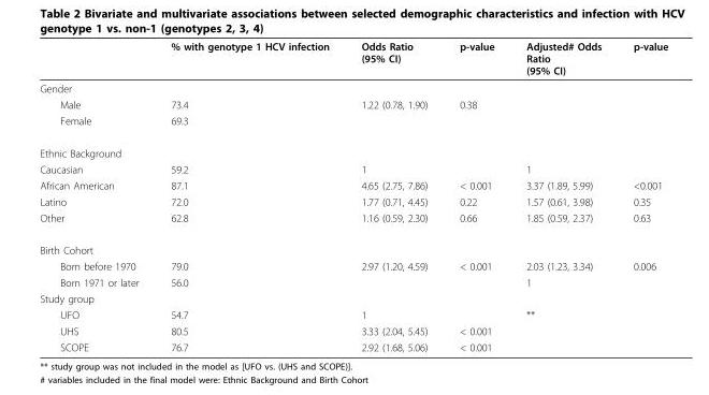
<table><thead><tr><td></td><td>% with genotype 1 HCV infection</td><td>Odds Ratio (95% CI)</td><td>p-value</td><td>Adjusted# Odds Ratio (95% CI)</td><td>p-value</td></tr></thead><tbody><tr><td colspan="6">Gender</td></tr><tr><td>Male</td><td>73.4</td><td>1.22 (0.78, 1.90)</td><td>0.38</td><td></td><td></td></tr><tr><td>Female</td><td>69.3</td><td></td><td></td><td></td><td></td></tr><tr><td colspan="6">Ethnic Background</td></tr><tr><td>Caucasian</td><td>59.2</td><td>1</td><td></td><td>1</td><td></td></tr><tr><td>African American</td><td>87.1</td><td>4.65 (2.75, 7.86)</td><td>&lt; 0.001</td><td>3.37 (1.89, 5.99)</td><td>&lt;0.001</td></tr><tr><td>Latino</td><td>72.0</td><td>1.77 (0.71, 4.45)</td><td>0.22</td><td>1.57 (0.61, 3.98)</td><td>0.35</td></tr><tr><td>Other</td><td>62.8</td><td>1.16 (0.59, 2.30)</td><td>0.66</td><td>1.85 (0.59, 2.37)</td><td>0.63</td></tr><tr><td colspan="6">Birth Cohort</td></tr><tr><td>Born before 1970</td><td>79.0</td><td>2.97 (1.20, 4.59)</td><td>&lt; 0.001</td><td>2.03 (1.23, 3.34)</td><td>0.006</td></tr><tr><td>Born 1971 or later</td><td>56.0</td><td></td><td></td><td>1</td><td></td></tr><tr><td colspan="6">Study group</td></tr><tr><td>UFO</td><td>54.7</td><td>1</td><td></td><td>**</td><td></td></tr><tr><td>UHS</td><td>80.5</td><td>3.33 (2.04, 5.45)</td><td>&lt; 0.001</td><td></td><td></td></tr><tr><td>SCOPE</td><td>76.7</td><td>2.92 (1.68, 5.06)</td><td>&lt; 0.001</td><td></td><td></td></tr></tbody></table>